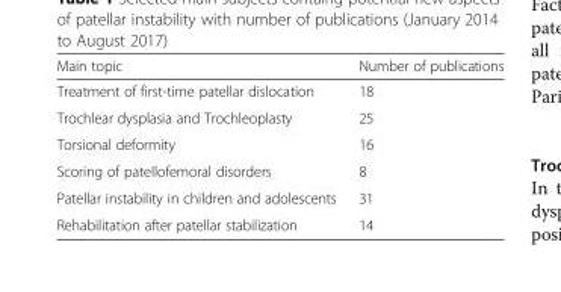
<table><thead><tr><td>Main topic</td><td>Number of publications</td></tr></thead><tbody><tr><td>Treatment of first-time patellar dislocation</td><td>18</td></tr><tr><td>Trochlear dysplasia and Trochleoplasty</td><td>25</td></tr><tr><td>Torsional deformity</td><td>16</td></tr><tr><td>Scoring of patellofemoral disorders</td><td>8</td></tr><tr><td>Patellar instability in children and adolescents</td><td>31</td></tr><tr><td>Rehabilitation after patellar stabilization</td><td>14</td></tr></tbody></table>